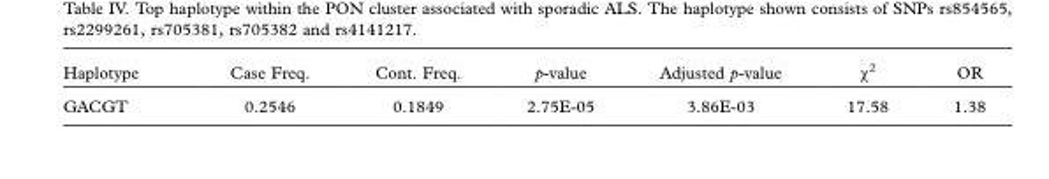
<table><thead><tr><td>Haplotype</td><td>Case Freq.</td><td>Cont. Freq.</td><td>p-value</td><td>Adjusted p-value</td><td>χ<sup>2</sup></td><td>OR</td></tr></thead><tbody><tr><td>GACGT</td><td>0.2546</td><td>0.1849</td><td>2.75E-05</td><td>3.86E-03</td><td>17.58</td><td>1.38</td></tr></tbody></table>